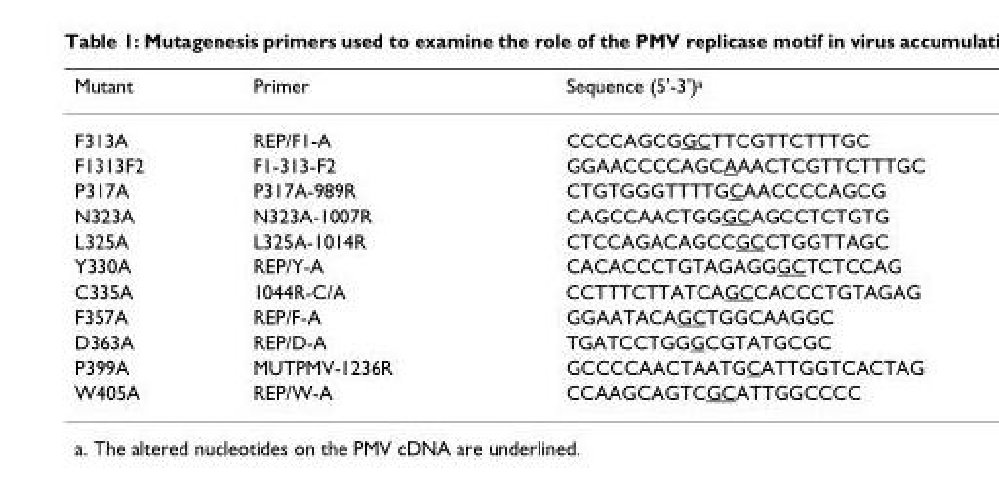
<table><thead><tr><td>Mutant</td><td>Primer</td><td>Sequence (5&#x27;-3&#x27;)<sup>a</sup></td></tr></thead><tbody><tr><td>F313A</td><td>REP/F1-A</td><td>CCCCAGCGGCTTCGTTCTTTGC</td></tr><tr><td>F1313F2</td><td>F1-313-F2</td><td>GGAACCCCAGCAAACTCGTTCTTTGC</td></tr><tr><td>P317A</td><td>P317A-989R</td><td>CTGTGGGTTTTGCAACCCCAGCG</td></tr><tr><td>N323A</td><td>N323A-1007R</td><td>CAGCCAACTGGGCAGCCTCTGTG</td></tr><tr><td>L325A</td><td>L325A-1014R</td><td>CTCCAGACAGCCGCCTGGTTAGC</td></tr><tr><td>Y330A</td><td>REP/Y-A</td><td>CACACCCTGTAGAGGGCTCTCCAG</td></tr><tr><td>C335A</td><td>1044R-C/A</td><td>CCTTTCTTATCAGCCACCCTGTAGAG</td></tr><tr><td>F357A</td><td>REP/F-A</td><td>GGAATACAGCTGGCAAGGC</td></tr><tr><td>D363A</td><td>REP/D-A</td><td>TGATCCTGGGCGTATGCGC</td></tr><tr><td>P399A</td><td>MUTPMV-1236R</td><td>GCCCCAACTAATGCATTGGTCACTAG</td></tr><tr><td>W405A</td><td>REP/W-A</td><td>CCAAGCAGTCGCATTGGCCCC</td></tr></tbody></table>